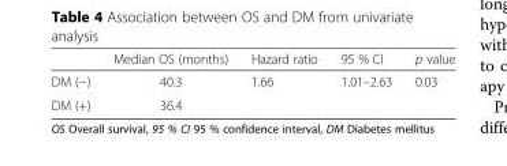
<table><thead><tr><td></td><td>Median OS (months)</td><td>Hazard ratio</td><td>95 % CI</td><td>p value</td></tr></thead><tbody><tr><td>DM (−)</td><td>40.3</td><td>1.66</td><td>1.01–2.63</td><td>0.03</td></tr><tr><td>DM (+)</td><td>36.4</td><td></td><td></td><td></td></tr></tbody></table>